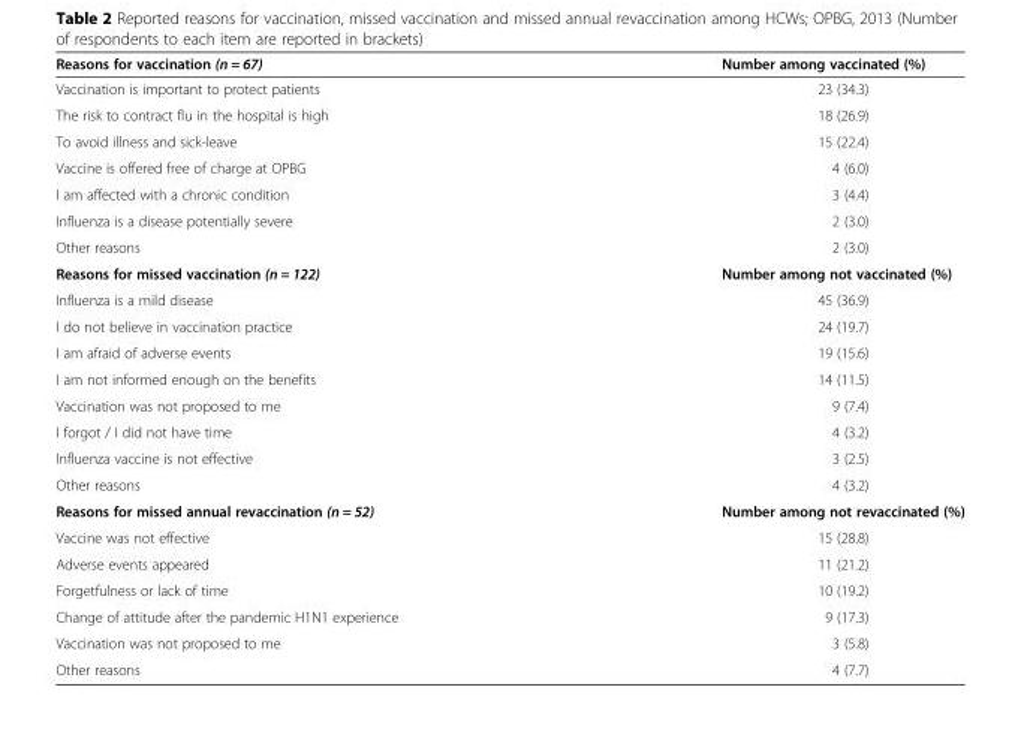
<table><thead><tr><td>Reasons for vaccination (n = 67)</td><td>Number among vaccinated (%)</td></tr></thead><tbody><tr><td>Vaccination is important to protect patients</td><td>23 (34.3)</td></tr><tr><td>The risk to contract flu in the hospital is high</td><td>18 (26.9)</td></tr><tr><td>To avoid illness and sick-leave</td><td>15 (22.4)</td></tr><tr><td>Vaccine is offered free of charge at OPBG</td><td>4 (6.0)</td></tr><tr><td>I am affected with a chronic condition</td><td>3 (4.4)</td></tr><tr><td>Influenza is a disease potentially severe</td><td>2 (3.0)</td></tr><tr><td>Other reasons</td><td>2 (3.0)</td></tr><tr><td>Reasons for missed vaccination (n = 122)</td><td>Number among not vaccinated (%)</td></tr><tr><td>Influenza is a mild disease</td><td>45 (36.9)</td></tr><tr><td>I do not believe in vaccination practice</td><td>24 (19.7)</td></tr><tr><td>I am afraid of adverse events</td><td>19 (15.6)</td></tr><tr><td>I am not informed enough on the benefits</td><td>14 (11.5)</td></tr><tr><td>Vaccination was not proposed to me</td><td>9 (7.4)</td></tr><tr><td>I forgot / I did not have time</td><td>4 (3.2)</td></tr><tr><td>Influenza vaccine is not effective</td><td>3 (2.5)</td></tr><tr><td>Other reasons</td><td>4 (3.2)</td></tr><tr><td>Reasons for missed annual revaccination (n = 52)</td><td>Number among not revaccinated (%)</td></tr><tr><td>Vaccine was not effective</td><td>15 (28.8)</td></tr><tr><td>Adverse events appeared</td><td>11 (21.2)</td></tr><tr><td>Forgetfulness or lack of time</td><td>10 (19.2)</td></tr><tr><td>Change of attitude after the pandemic H1N1 experience</td><td>9 (17.3)</td></tr><tr><td>Vaccination was not proposed to me</td><td>3 (5.8)</td></tr><tr><td>Other reasons</td><td>4 (7.7)</td></tr></tbody></table>